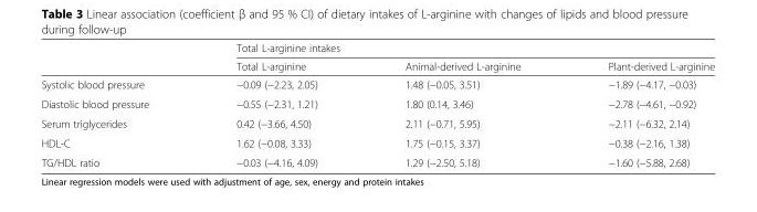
<table><thead><tr><td rowspan="2"></td><td colspan="3">Total L-arginine intakes</td></tr><tr><td>Total L-arginine</td><td>Animal-derived L-arginine</td><td>Plant-derived L-arginine</td></tr></thead><tbody><tr><td>Systolic blood pressure</td><td>−0.09 (−2.23, 2.05)</td><td>1.48 (−0.05, 3.51)</td><td>−1.89 (−4.17, −0.03)</td></tr><tr><td>Diastolic blood pressure</td><td>−0.55 (−2.31, 1.21)</td><td>1.80 (0.14, 3.46)</td><td>−2.78 (−4.61, −0.92)</td></tr><tr><td>Serum triglycerides</td><td>0.42 (−3.66, 4.50)</td><td>2.11 (−0.71, 5.95)</td><td>−2.11 (−6.32, 2.14)</td></tr><tr><td>HDL-C</td><td>1.62 (−0.08, 3.33)</td><td>1.75 (−0.15, 3.37)</td><td>−0.38 (−2.16, 1.38)</td></tr><tr><td>TG/HDL ratio</td><td>−0.03 (−4.16, 4.09)</td><td>1.29 (−2.50, 5.18)</td><td>−1.60 (−5.88, 2.68)</td></tr></tbody></table>